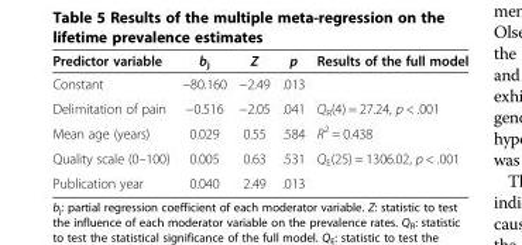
<table><thead><tr><td>Predictor variable</td><td>b<sub>j</sub></td><td>Z</td><td>p</td><td>Results of the full model</td></tr></thead><tbody><tr><td>Constant</td><td>−80.160</td><td>−2.49</td><td>.013</td><td></td></tr><tr><td>Delimitation of pain</td><td>−0.516</td><td>−2.05</td><td>.041</td><td>Q<sub>R</sub>(4) = 27.24, p &lt; .001</td></tr><tr><td>Mean age (years)</td><td>0.029</td><td>0.55</td><td>.584</td><td>R<sup>2</sup> = 0.438</td></tr><tr><td>Quality scale (0–100)</td><td>0.005</td><td>0.63</td><td>.531</td><td>Q<sub>E</sub>(25) = 1306.02, p &lt; .001</td></tr><tr><td>Publication year</td><td>0.040</td><td>2.49</td><td>.013</td><td></td></tr></tbody></table>